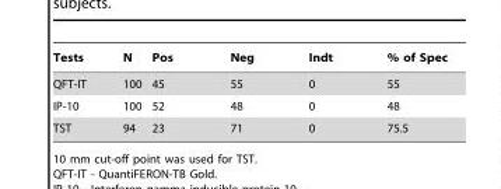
<table><thead><tr><td>Tests</td><td>N</td><td>Pos</td><td>Neg</td><td>Indt</td><td>% of Spec</td></tr></thead><tbody><tr><td>QFT-IT</td><td>100</td><td>45</td><td>55</td><td>0</td><td>55</td></tr><tr><td>IP-10</td><td>100</td><td>52</td><td>48</td><td>0</td><td>48</td></tr><tr><td>TST</td><td>94</td><td>23</td><td>71</td><td>0</td><td>75.5</td></tr></tbody></table>